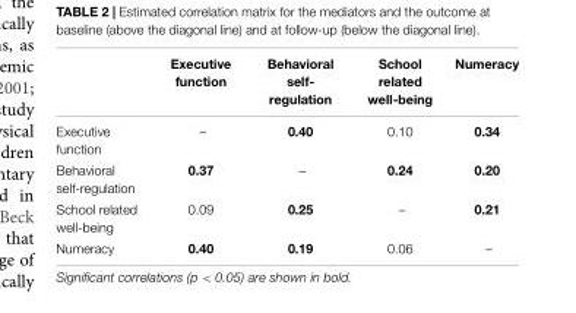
<table><thead><tr><td></td><td>Executive function</td><td>Behavioral self- regulation</td><td>School related well-being</td><td>Numeracy</td></tr></thead><tbody><tr><td>Executive function</td><td>–</td><td>0.40</td><td>0.10</td><td>0.34</td></tr><tr><td>Behavioral self-regulation</td><td>0.37</td><td>–</td><td>0.24</td><td>0.20</td></tr><tr><td>School related well-being</td><td>0.09</td><td>0.25</td><td>–</td><td>0.21</td></tr><tr><td>Numeracy</td><td>0.40</td><td>0.19</td><td>0.06</td><td>–</td></tr></tbody></table>